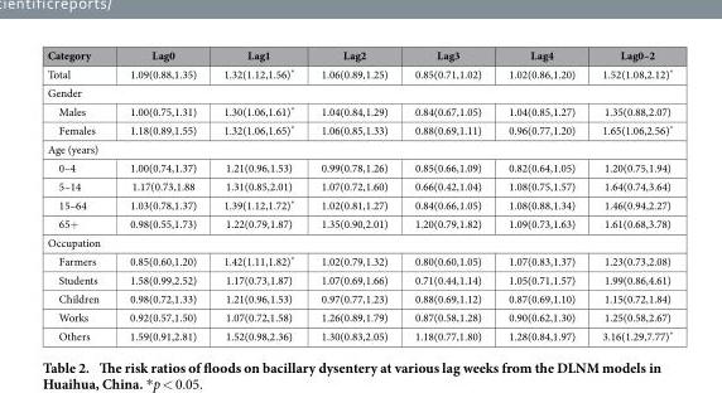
<table><thead><tr><td>Category</td><td>Lag0</td><td>Lag1</td><td>Lag2</td><td>Lag3</td><td>Lag4</td><td>Lag0–2</td></tr></thead><tbody><tr><td>Total</td><td>1.09(0.88,1.35)</td><td>1.32(1.12,1.56)*</td><td>1.06(0.89,1.25)</td><td>0.85(0.71,1.02)</td><td>1.02(0.86,1.20)</td><td>1.52(1.08,2.12)*</td></tr><tr><td colspan="7">Gender</td></tr><tr><td>Males</td><td>1.00(0.75,1.31)</td><td>1.30(1.06,1.61)*</td><td>1.04(0.84,1.29)</td><td>0.84(0.67,1.05)</td><td>1.04(0.85,1.27)</td><td>1.35(0.88,2.07)</td></tr><tr><td>Females</td><td>1.18(0.89,1.55)</td><td>1.32(1.06,1.65)*</td><td>1.06(0.85,1.33)</td><td>0.88(0.69,1.11)</td><td>0.96(0.77,1.20)</td><td>1.65(1.06,2.56)*</td></tr><tr><td colspan="7">Age (years)</td></tr><tr><td>0–4</td><td>1.00(0.74,1.37)</td><td>1.21(0.96,1.53)</td><td>0.99(0.78,1.26)</td><td>0.85(0.66,1.09)</td><td>0.82(0.64,1.05)</td><td>1.20(0.75,1.94)</td></tr><tr><td>5–14</td><td>1.17(0.73,1.88</td><td>1.31(0.85,2.01)</td><td>1.07(0.72,1.60)</td><td>0.66(0.42,1.04)</td><td>1.08(0.75,1.57)</td><td>1.64(0.74,3.64)</td></tr><tr><td>15–64</td><td>1.03(0.78,1.37)</td><td>1.39(1.12,1.72)*</td><td>1.02(0.81,1.27)</td><td>0.84(0.66,1.05)</td><td>1.08(0.88,1.34)</td><td>1.46(0.94,2.27)</td></tr><tr><td>65+</td><td>0.98(0.55,1.73)</td><td>1.22(0.79,1.87)</td><td>1.35(0.90,2.01)</td><td>1.20(0.79,1.82)</td><td>1.09(0.73,1.63)</td><td>1.61(0.68,3.78)</td></tr><tr><td colspan="7">Occupation</td></tr><tr><td>Farmers</td><td>0.85(0.60,1.20)</td><td>1.42(1.11,1.82)*</td><td>1.02(0.79,1.32)</td><td>0.80(0.60,1.05)</td><td>1.07(0.83,1.37)</td><td>1.23(0.73,2.08)</td></tr><tr><td>Students</td><td>1.58(0.99,2.52)</td><td>1.17(0.73,1.87)</td><td>1.07(0.69,1.66)</td><td>0.71(0.44,1.14)</td><td>1.05(0.71,1.57)</td><td>1.99(0.86,4.61)</td></tr><tr><td>Children</td><td>0.98(0.72,1.33)</td><td>1.21(0.96,1.53)</td><td>0.97(0.77,1.23)</td><td>0.88(0.69,1.12)</td><td>0.87(0.69,1.10)</td><td>1.15(0.72,1.84)</td></tr><tr><td>Works</td><td>0.92(0.57,1.50)</td><td>1.07(0.72,1.58)</td><td>1.26(0.89,1.79)</td><td>0.87(0.58,1.28)</td><td>0.90(0.62,1.30)</td><td>1.25(0.58,2.67)</td></tr><tr><td>Others</td><td>1.59(0.91,2.81)</td><td>1.52(0.98,2.36)</td><td>1.30(0.83,2.05)</td><td>1.18(0.77,1.80)</td><td>1.28(0.84,1.97)</td><td>3.16(1.29,7.77)*</td></tr></tbody></table>